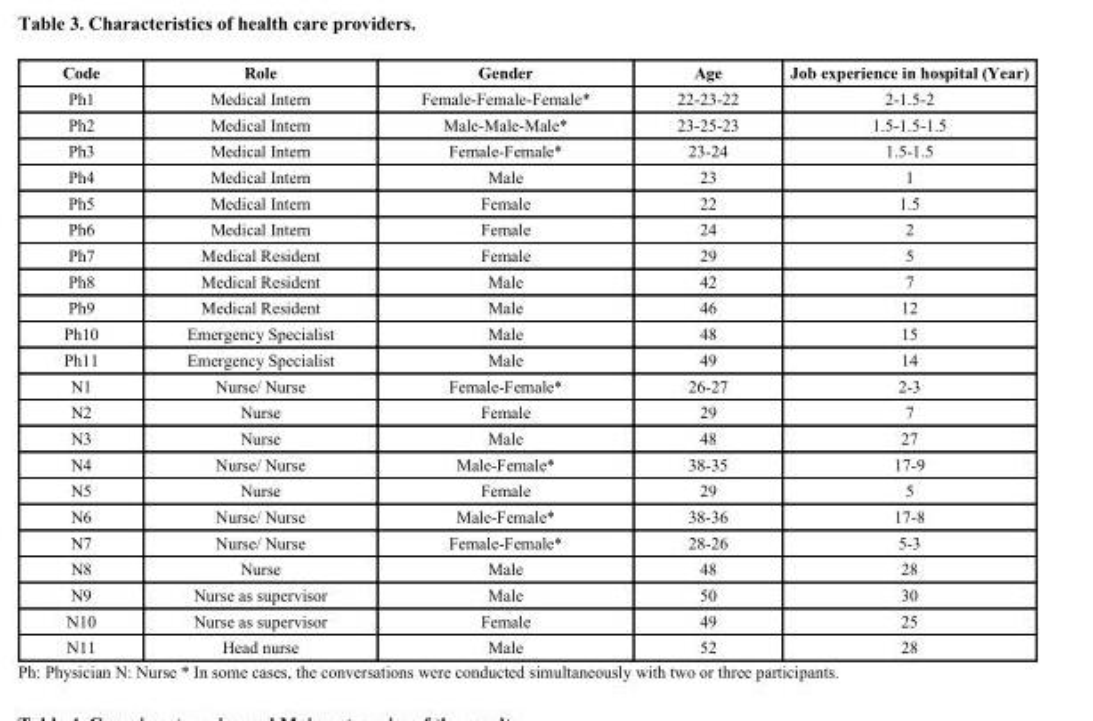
<table><thead><tr><td>Code</td><td>Role</td><td>Gender</td><td>Age</td><td>Job experience in hospital (Year)</td></tr></thead><tbody><tr><td>Ph1</td><td>Medical Intern</td><td>Female-Female-Female*</td><td>22-23-22</td><td>2-1.5-2</td></tr><tr><td>Ph2</td><td>Medical Intern</td><td>Male-Male-Male*</td><td>23-25-23</td><td>1.5-1.5-1.5</td></tr><tr><td>Ph3</td><td>Medical Intern</td><td>Female-Female*</td><td>23-24</td><td>1.5-1.5</td></tr><tr><td>Ph4</td><td>Medical Intern</td><td>Male</td><td>23</td><td>1</td></tr><tr><td>Ph5</td><td>Medical Intern</td><td>Female</td><td>22</td><td>1.5</td></tr><tr><td>Ph6</td><td>Medical Intern</td><td>Female</td><td>24</td><td>2</td></tr><tr><td>Ph7</td><td>Medical Resident</td><td>Female</td><td>29</td><td>5</td></tr><tr><td>Ph8</td><td>Medical Resident</td><td>Male</td><td>42</td><td>7</td></tr><tr><td>Ph9</td><td>Medical Resident</td><td>Male</td><td>46</td><td>12</td></tr><tr><td>Ph10</td><td>Emergency Specialist</td><td>Male</td><td>48</td><td>15</td></tr><tr><td>Ph11</td><td>Emergency Specialist</td><td>Male</td><td>49</td><td>14</td></tr><tr><td>N1</td><td>Nurse/ Nurse</td><td>Female-Female*</td><td>26-27</td><td>2-3</td></tr><tr><td>N2</td><td>Nurse</td><td>Female</td><td>29</td><td>7</td></tr><tr><td>N3</td><td>Nurse</td><td>Male</td><td>48</td><td>27</td></tr><tr><td>N4</td><td>Nurse/ Nurse</td><td>Male-Female*</td><td>38-35</td><td>17-9</td></tr><tr><td>N5</td><td>Nurse</td><td>Female</td><td>29</td><td>5</td></tr><tr><td>N6</td><td>Nurse/ Nurse</td><td>Male-Female*</td><td>38-36</td><td>17-8</td></tr><tr><td>N7</td><td>Nurse/ Nurse</td><td>Female-Female*</td><td>28-26</td><td>5-3</td></tr><tr><td>N8</td><td>Nurse</td><td>Male</td><td>48</td><td>28</td></tr><tr><td>N9</td><td>Nurse as supervisor</td><td>Male</td><td>50</td><td>30</td></tr><tr><td>N10</td><td>Nurse as supervisor</td><td>Female</td><td>49</td><td>25</td></tr><tr><td>N11</td><td>Head nurse</td><td>Male</td><td>52</td><td>28</td></tr></tbody></table>